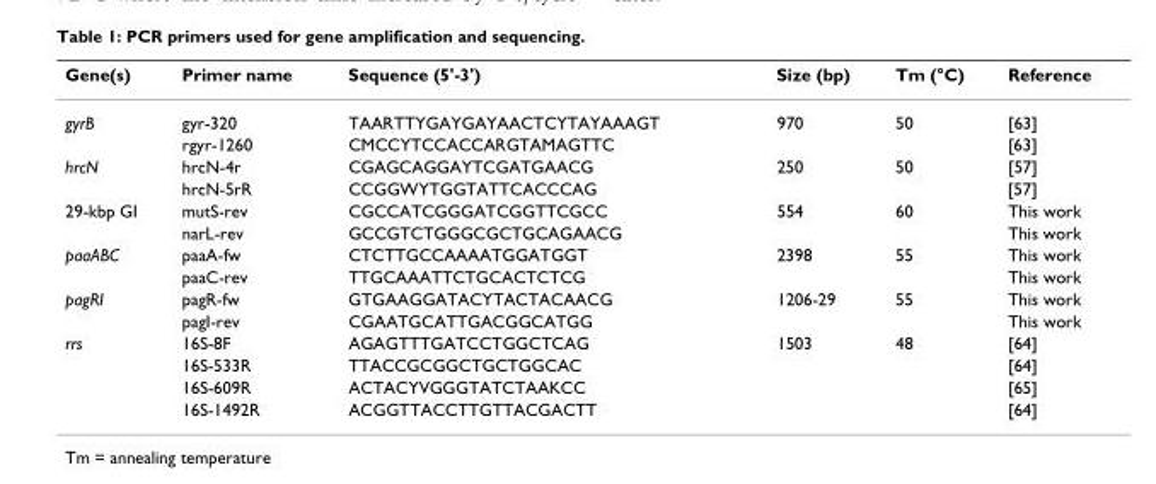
<table><thead><tr><td>Gene(s)</td><td>Primer name</td><td>Sequence (5&#x27;-3&#x27;)</td><td>Size (bp)</td><td>Tm (°C)</td><td>Reference</td></tr></thead><tbody><tr><td rowspan="2">gyrB</td><td>gyr-320</td><td>TAARTTYGAYGAYAACTCYTAYAAAGT</td><td>970</td><td>50</td><td>[63]</td></tr><tr><td>rgyr-1260</td><td>CMCCYTCCACCARGTAMAGTTC</td><td></td><td></td><td>[63]</td></tr><tr><td rowspan="2">hrcN</td><td>hrcN-4r</td><td>CGAGCAGGAYTCGATGAACG</td><td>250</td><td>50</td><td>[57]</td></tr><tr><td>hrcN-5rR</td><td>CCGGWYTGGTATTCACCCAG</td><td></td><td></td><td>[57]</td></tr><tr><td rowspan="2">29-kbp GI</td><td>mutS-rev</td><td>CGCCATCGGGATCGGTTCGCC</td><td>554</td><td>60</td><td>This work</td></tr><tr><td>narL-rev</td><td>GCCGTCTGGGCGCTGCAGAACG</td><td></td><td></td><td>This work</td></tr><tr><td rowspan="2">paaABC</td><td>paaA-fw</td><td>CTCTTGCCAAAATGGATGGT</td><td>2398</td><td>55</td><td>This work</td></tr><tr><td>paaC-rev</td><td>TTGCAAATTCTGCACTCTCG</td><td></td><td></td><td>This work</td></tr><tr><td rowspan="2">pagRI</td><td>pagR-fw</td><td>GTGAAGGATACYTACTACAACG</td><td>1206-29</td><td>55</td><td>This work</td></tr><tr><td>pagI-rev</td><td>CGAATGCATTGACGGCATGG</td><td></td><td></td><td>This work</td></tr><tr><td rowspan="4">rrs</td><td>16S-8F</td><td>AGAGTTTGATCCTGGCTCAG</td><td>1503</td><td>48</td><td>[64]</td></tr><tr><td>16S-533R</td><td>TTACCGCGGCTGCTGGCAC</td><td></td><td></td><td>[64]</td></tr><tr><td>16S-609R</td><td>ACTACYVGGGTATCTAAKCC</td><td></td><td></td><td>[65]</td></tr><tr><td>16S-1492R</td><td>ACGGTTACCTTGTTACGACTT</td><td></td><td></td><td>[64]</td></tr></tbody></table>